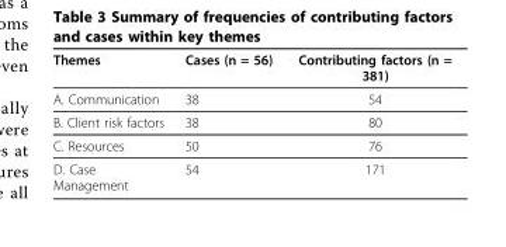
<table><thead><tr><td>Themes</td><td>Cases (n = 56)</td><td>Contributing factors (n = 381)</td></tr></thead><tbody><tr><td>A. Communication</td><td>38</td><td>54</td></tr><tr><td>B. Client risk factors</td><td>38</td><td>80</td></tr><tr><td>C. Resources</td><td>50</td><td>76</td></tr><tr><td>D. Case Management</td><td>54</td><td>171</td></tr></tbody></table>